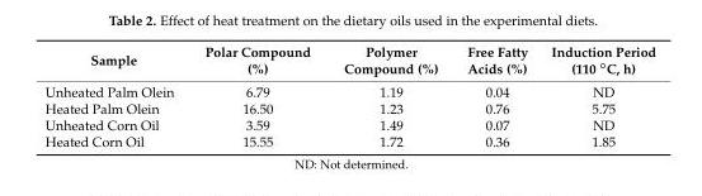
<table><thead><tr><td>Sample</td><td>Polar Compound (%)</td><td>Polymer Compound (%)</td><td>Free Fatty Acids (%)</td><td>Induction Period (110 ◦C, h)</td></tr></thead><tbody><tr><td>Unheated Palm Olein</td><td>6.79</td><td>1.19</td><td>0.04</td><td>ND</td></tr><tr><td>Heated Palm Olein</td><td>16.50</td><td>1.23</td><td>0.76</td><td>5.75</td></tr><tr><td>Unheated Corn Oil</td><td>3.59</td><td>1.49</td><td>0.07</td><td>ND</td></tr><tr><td>Heated Corn Oil</td><td>15.55</td><td>1.72</td><td>0.36</td><td>1.85</td></tr></tbody></table>